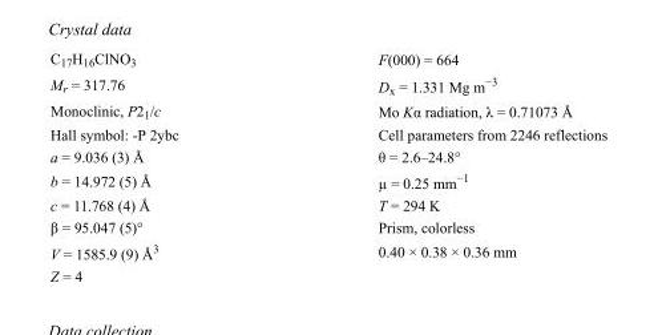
<table><tbody><tr><td>C<sub>17</sub>H<sub>16</sub>ClNO<sub>3</sub></td><td>F(000) = 664</td></tr><tr><td>M<sub>r</sub> = 317.76</td><td>D<sub>x</sub> = 1.331 Mg m<sup>−3</sup></td></tr><tr><td>Monoclinic, P2<sub>1</sub>/c</td><td>Mo Kα radiation, λ = 0.71073 Å</td></tr><tr><td>Hall symbol: -P 2ybc</td><td>Cell parameters from 2246 reflections</td></tr><tr><td>a = 9.036 (3) Å</td><td>θ = 2.6–24.8°</td></tr><tr><td>b = 14.972 (5) Å</td><td>µ = 0.25 mm<sup>−1</sup></td></tr><tr><td>c = 11.768 (4) Å</td><td>T = 294 K</td></tr><tr><td>β = 95.047 (5)°</td><td>Prism, colorless</td></tr><tr><td>V = 1585.9 (9) Å<sup>3</sup></td><td>0.40 × 0.38 × 0.36 mm</td></tr><tr><td>Z = 4</td><td></td></tr></tbody></table>